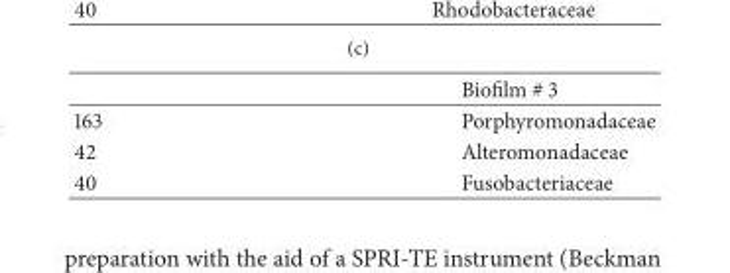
<table><thead><tr><td></td><td>Biofilm # 3</td></tr></thead><tbody><tr><td>163</td><td>Porphyromonadaceae</td></tr><tr><td>42</td><td>Alteromonadaceae</td></tr><tr><td>40</td><td>Fusobacteriaceae</td></tr></tbody></table>